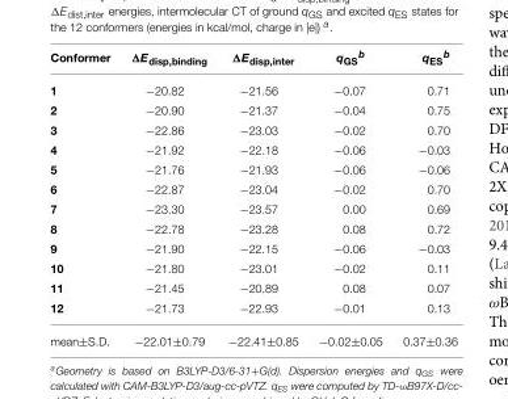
<table><thead><tr><td>Conformer</td><td>ΔE<sub>disp,binding</sub></td><td>ΔE<sub>disp,inter</sub></td><td>q<sub>GS</sub><sup>b</sup></td><td>q<sub>ES</sub><sup>b</sup></td></tr></thead><tbody><tr><td>1</td><td>−20.82</td><td>−21.56</td><td>−0.07</td><td>0.71</td></tr><tr><td>2</td><td>−20.90</td><td>−21.37</td><td>−0.04</td><td>0.75</td></tr><tr><td>3</td><td>−22.86</td><td>−23.03</td><td>−0.02</td><td>0.70</td></tr><tr><td>4</td><td>−21.92</td><td>−22.18</td><td>−0.06</td><td>−0.03</td></tr><tr><td>5</td><td>−21.76</td><td>−21.93</td><td>−0.06</td><td>−0.06</td></tr><tr><td>6</td><td>−22.87</td><td>−23.04</td><td>−0.02</td><td>0.70</td></tr><tr><td>7</td><td>−23.30</td><td>−23.57</td><td>0.00</td><td>0.69</td></tr><tr><td>8</td><td>−22.78</td><td>−23.28</td><td>0.08</td><td>0.72</td></tr><tr><td>9</td><td>−21.90</td><td>−22.15</td><td>−0.06</td><td>−0.03</td></tr><tr><td>10</td><td>−21.80</td><td>−23.01</td><td>−0.02</td><td>0.11</td></tr><tr><td>11</td><td>−21.45</td><td>−20.89</td><td>0.08</td><td>0.07</td></tr><tr><td>12</td><td>−21.73</td><td>−22.93</td><td>−0.01</td><td>0.13</td></tr><tr><td>mean±S.D.</td><td>−22.01±0.79</td><td>−22.41±0.85</td><td>−0.02±0.05</td><td>0.37±0.36</td></tr></tbody></table>